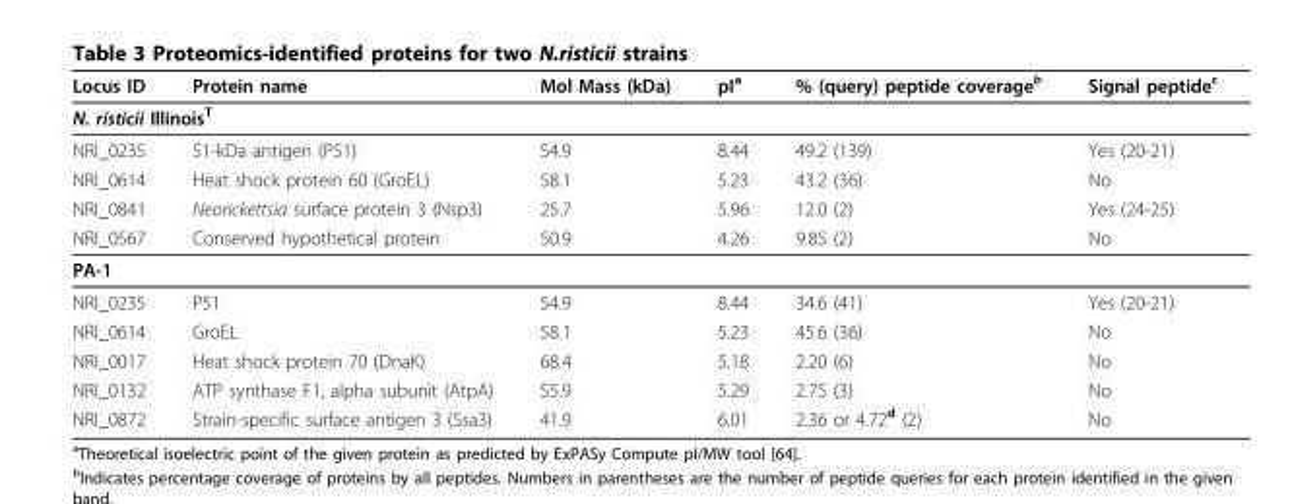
<table><thead><tr><td>Locus ID</td><td>Protein name</td><td>Mol Mass (kDa)</td><td>pI<sup>a</sup></td><td>% (query) peptide coverage<sup>b</sup></td><td>Signal peptide<sup>c</sup></td></tr></thead><tbody><tr><td colspan="6">N. risticii Illinois<sup>T</sup></td></tr><tr><td>NRI_0235</td><td>51-kDa antigen (P51)</td><td>54.9</td><td>8.44</td><td>49.2 (139)</td><td>Yes (20-21)</td></tr><tr><td>NRI_0614</td><td>Heat shock protein 60 (GroEL)</td><td>58.1</td><td>5.23</td><td>43.2 (36)</td><td>No</td></tr><tr><td>NRI_0841</td><td>Neorickettsia surface protein 3 (Nsp3)</td><td>25.7</td><td>5.96</td><td>12.0 (2)</td><td>Yes (24-25)</td></tr><tr><td>NRI_0567</td><td>Conserved hypothetical protein</td><td>50.9</td><td>4.26</td><td>9.85 (2)</td><td>No</td></tr><tr><td colspan="6">PA-1</td></tr><tr><td>NRI_0235</td><td>P51</td><td>54.9</td><td>8.44</td><td>34.6 (41)</td><td>Yes (20-21)</td></tr><tr><td>NRI_0614</td><td>GroEL</td><td>58.1</td><td>5.23</td><td>45.6 (36)</td><td>No</td></tr><tr><td>NRI_0017</td><td>Heat shock protein 70 (DnaK)</td><td>68.4</td><td>5.18</td><td>2.20 (6)</td><td>No</td></tr><tr><td>NRI_0132</td><td>ATP synthase F1, alpha subunit (AtpA)</td><td>55.9</td><td>5.29</td><td>2.75 (3)</td><td>No</td></tr><tr><td>NRI_0872</td><td>Strain-specific surface antigen 3 (Ssa3)</td><td>41.9</td><td>6.01</td><td>2.36 or 4.72<sup>d</sup> (2)</td><td>No</td></tr></tbody></table>